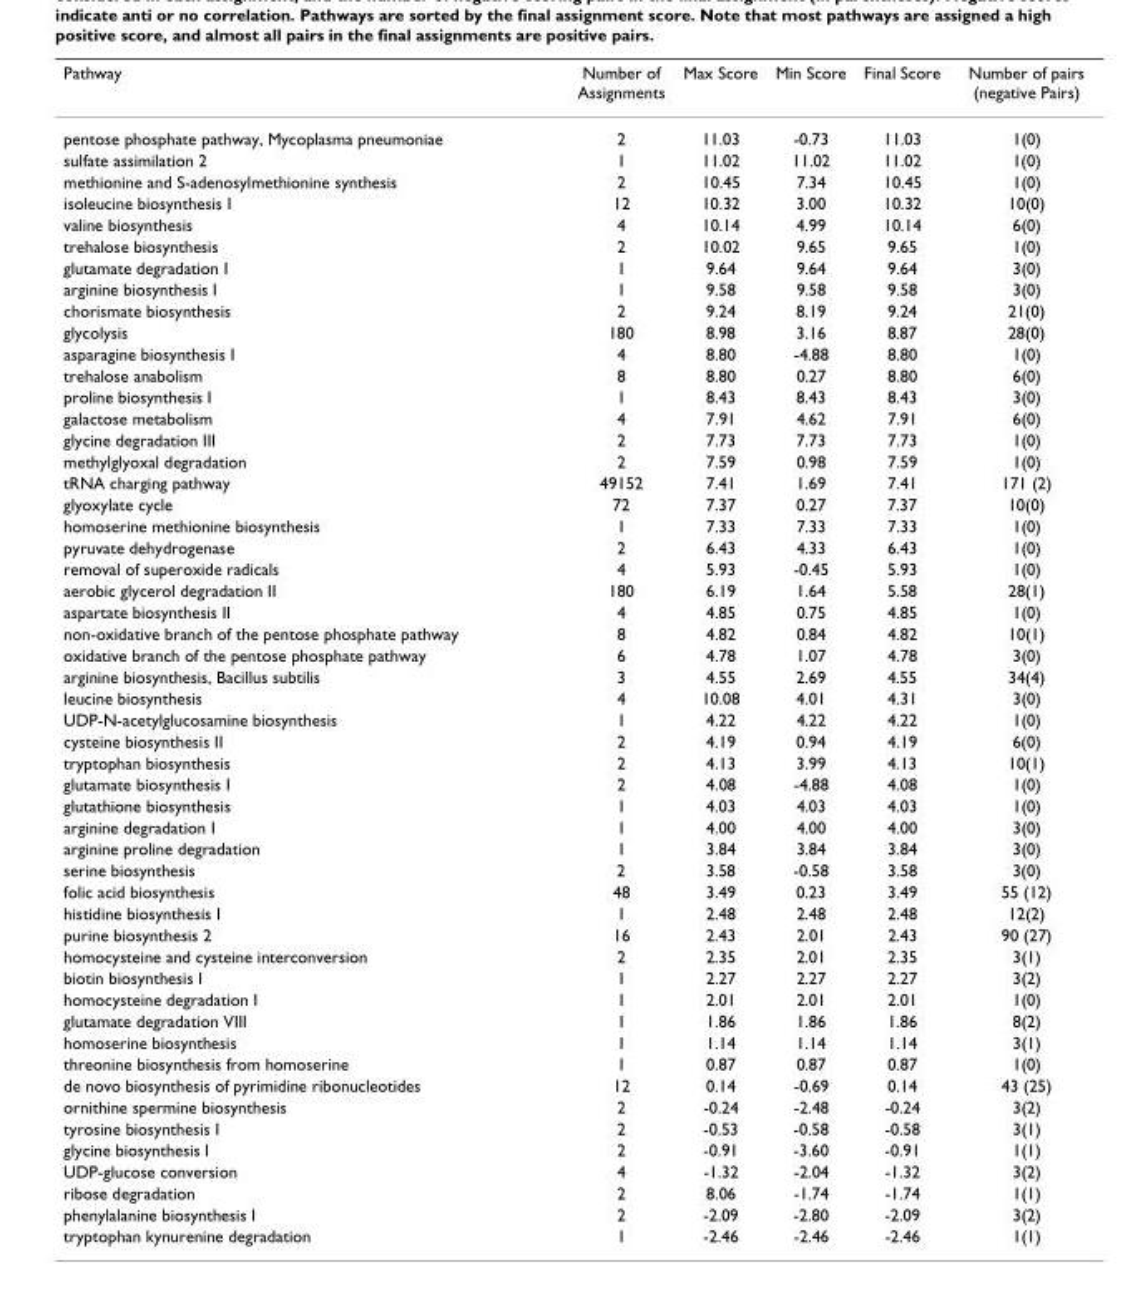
<table><thead><tr><td>Pathway</td><td>Number of Assignments</td><td>Max Score</td><td>Min Score</td><td>Final Score</td><td>Number of pairs (negative Pairs)</td></tr></thead><tbody><tr><td>pentose phosphate pathway, Mycoplasma pneumoniae</td><td>2</td><td>11.03</td><td>-0.73</td><td>11.03</td><td>1(0)</td></tr><tr><td>sulfate assimilation 2</td><td>1</td><td>11.02</td><td>11.02</td><td>11.02</td><td>1(0)</td></tr><tr><td>methionine and S-adenosylmethionine synthesis</td><td>2</td><td>10.45</td><td>7.34</td><td>10.45</td><td>1(0)</td></tr><tr><td>isoleucine biosynthesis I</td><td>12</td><td>10.32</td><td>3.00</td><td>10.32</td><td>10(0)</td></tr><tr><td>valine biosynthesis</td><td>4</td><td>10.14</td><td>4.99</td><td>10.14</td><td>6(0)</td></tr><tr><td>trehalose biosynthesis</td><td>2</td><td>10.02</td><td>9.65</td><td>9.65</td><td>1(0)</td></tr><tr><td>glutamate degradation I</td><td>1</td><td>9.64</td><td>9.64</td><td>9.64</td><td>3(0)</td></tr><tr><td>arginine biosynthesis I</td><td>1</td><td>9.58</td><td>9.58</td><td>9.58</td><td>3(0)</td></tr><tr><td>chorismate biosynthesis</td><td>2</td><td>9.24</td><td>8.19</td><td>9.24</td><td>21(0)</td></tr><tr><td>glycolysis</td><td>180</td><td>8.98</td><td>3.16</td><td>8.87</td><td>28(0)</td></tr><tr><td>asparagine biosynthesis I</td><td>4</td><td>8.80</td><td>-4.88</td><td>8.80</td><td>1(0)</td></tr><tr><td>trehalose anabolism</td><td>8</td><td>8.80</td><td>0.27</td><td>8.80</td><td>6(0)</td></tr><tr><td>proline biosynthesis I</td><td>1</td><td>8.43</td><td>8.43</td><td>8.43</td><td>3(0)</td></tr><tr><td>galactose metabolism</td><td>4</td><td>7.91</td><td>4.62</td><td>7.91</td><td>6(0)</td></tr><tr><td>glycine degradation III</td><td>2</td><td>7.73</td><td>7.73</td><td>7.73</td><td>1(0)</td></tr><tr><td>methylglyoxal degradation</td><td>2</td><td>7.59</td><td>0.98</td><td>7.59</td><td>1(0)</td></tr><tr><td>tRNA charging pathway</td><td>49152</td><td>7.41</td><td>1.69</td><td>7.41</td><td>171 (2)</td></tr><tr><td>glyoxylate cycle</td><td>72</td><td>7.37</td><td>0.27</td><td>7.37</td><td>10(0)</td></tr><tr><td>homoserine methionine biosynthesis</td><td>1</td><td>7.33</td><td>7.33</td><td>7.33</td><td>1(0)</td></tr><tr><td>pyruvate dehydrogenase</td><td>2</td><td>6.43</td><td>4.33</td><td>6.43</td><td>1(0)</td></tr><tr><td>removal of superoxide radicals</td><td>4</td><td>5.93</td><td>-0.45</td><td>5.93</td><td>1(0)</td></tr><tr><td>aerobic glycerol degradation II</td><td>180</td><td>6.19</td><td>1.64</td><td>5.58</td><td>28(1)</td></tr><tr><td>aspartate biosynthesis II</td><td>4</td><td>4.85</td><td>0.75</td><td>4.85</td><td>1(0)</td></tr><tr><td>non-oxidative branch of the pentose phosphate pathway</td><td>8</td><td>4.82</td><td>0.84</td><td>4.82</td><td>10(1)</td></tr><tr><td>oxidative branch of the pentose phosphate pathway</td><td>6</td><td>4.78</td><td>1.07</td><td>4.78</td><td>3(0)</td></tr><tr><td>arginine biosynthesis, Bacillus subtilis</td><td>3</td><td>4.55</td><td>2.69</td><td>4.55</td><td>34(4)</td></tr><tr><td>leucine biosynthesis</td><td>4</td><td>10.08</td><td>4.01</td><td>4.31</td><td>3(0)</td></tr><tr><td>UDP-N-acetylglucosamine biosynthesis</td><td>1</td><td>4.22</td><td>4.22</td><td>4.22</td><td>1(0)</td></tr><tr><td>cysteine biosynthesis II</td><td>2</td><td>4.19</td><td>0.94</td><td>4.19</td><td>6(0)</td></tr><tr><td>tryptophan biosynthesis</td><td>2</td><td>4.13</td><td>3.99</td><td>4.13</td><td>10(1)</td></tr><tr><td>glutamate biosynthesis I</td><td>2</td><td>4.08</td><td>-4.88</td><td>4.08</td><td>1(0)</td></tr><tr><td>glutathione biosynthesis</td><td>1</td><td>4.03</td><td>4.03</td><td>4.03</td><td>1(0)</td></tr><tr><td>arginine degradation I</td><td>1</td><td>4.00</td><td>4.00</td><td>4.00</td><td>3(0)</td></tr><tr><td>arginine proline degradation</td><td>1</td><td>3.84</td><td>3.84</td><td>3.84</td><td>3(0)</td></tr><tr><td>serine biosynthesis</td><td>2</td><td>3.58</td><td>-0.58</td><td>3.58</td><td>3(0)</td></tr><tr><td>folic acid biosynthesis</td><td>48</td><td>3.49</td><td>0.23</td><td>3.49</td><td>55 (12)</td></tr><tr><td>histidine biosynthesis I</td><td>1</td><td>2.48</td><td>2.48</td><td>2.48</td><td>12(2)</td></tr><tr><td>purine biosynthesis 2</td><td>16</td><td>2.43</td><td>2.01</td><td>2.43</td><td>90 (27)</td></tr><tr><td>homocysteine and cysteine interconversion</td><td>2</td><td>2.35</td><td>2.01</td><td>2.35</td><td>3(1)</td></tr><tr><td>biotin biosynthesis I</td><td>1</td><td>2.27</td><td>2.27</td><td>2.27</td><td>3(2)</td></tr><tr><td>homocysteine degradation I</td><td>1</td><td>2.01</td><td>2.01</td><td>2.01</td><td>1(0)</td></tr><tr><td>glutamate degradation VIII</td><td>1</td><td>1.86</td><td>1.86</td><td>1.86</td><td>8(2)</td></tr><tr><td>homoserine biosynthesis</td><td>1</td><td>1.14</td><td>1.14</td><td>1.14</td><td>3(1)</td></tr><tr><td>threonine biosynthesis from homoserine</td><td>1</td><td>0.87</td><td>0.87</td><td>0.87</td><td>1(0)</td></tr><tr><td>de novo biosynthesis of pyrimidine ribonucleotides</td><td>12</td><td>0.14</td><td>-0.69</td><td>0.14</td><td>43 (25)</td></tr><tr><td>ornithine spermine biosynthesis</td><td>2</td><td>-0.24</td><td>-2.48</td><td>-0.24</td><td>3(2)</td></tr><tr><td>tyrosine biosynthesis I</td><td>2</td><td>-0.53</td><td>-0.58</td><td>-0.58</td><td>3(1)</td></tr><tr><td>glycine biosynthesis I</td><td>2</td><td>-0.91</td><td>-3.60</td><td>-0.91</td><td>1(1)</td></tr><tr><td>UDP-glucose conversion</td><td>4</td><td>-1.32</td><td>-2.04</td><td>-1.32</td><td>3(2)</td></tr><tr><td>ribose degradation</td><td>2</td><td>8.06</td><td>-1.74</td><td>-1.74</td><td>1(1)</td></tr><tr><td>phenylalanine biosynthesis I</td><td>2</td><td>-2.09</td><td>-2.80</td><td>-2.09</td><td>3(2)</td></tr><tr><td>tryptophan kynurenine degradation</td><td>1</td><td>-2.46</td><td>-2.46</td><td>-2.46</td><td>1(1)</td></tr></tbody></table>